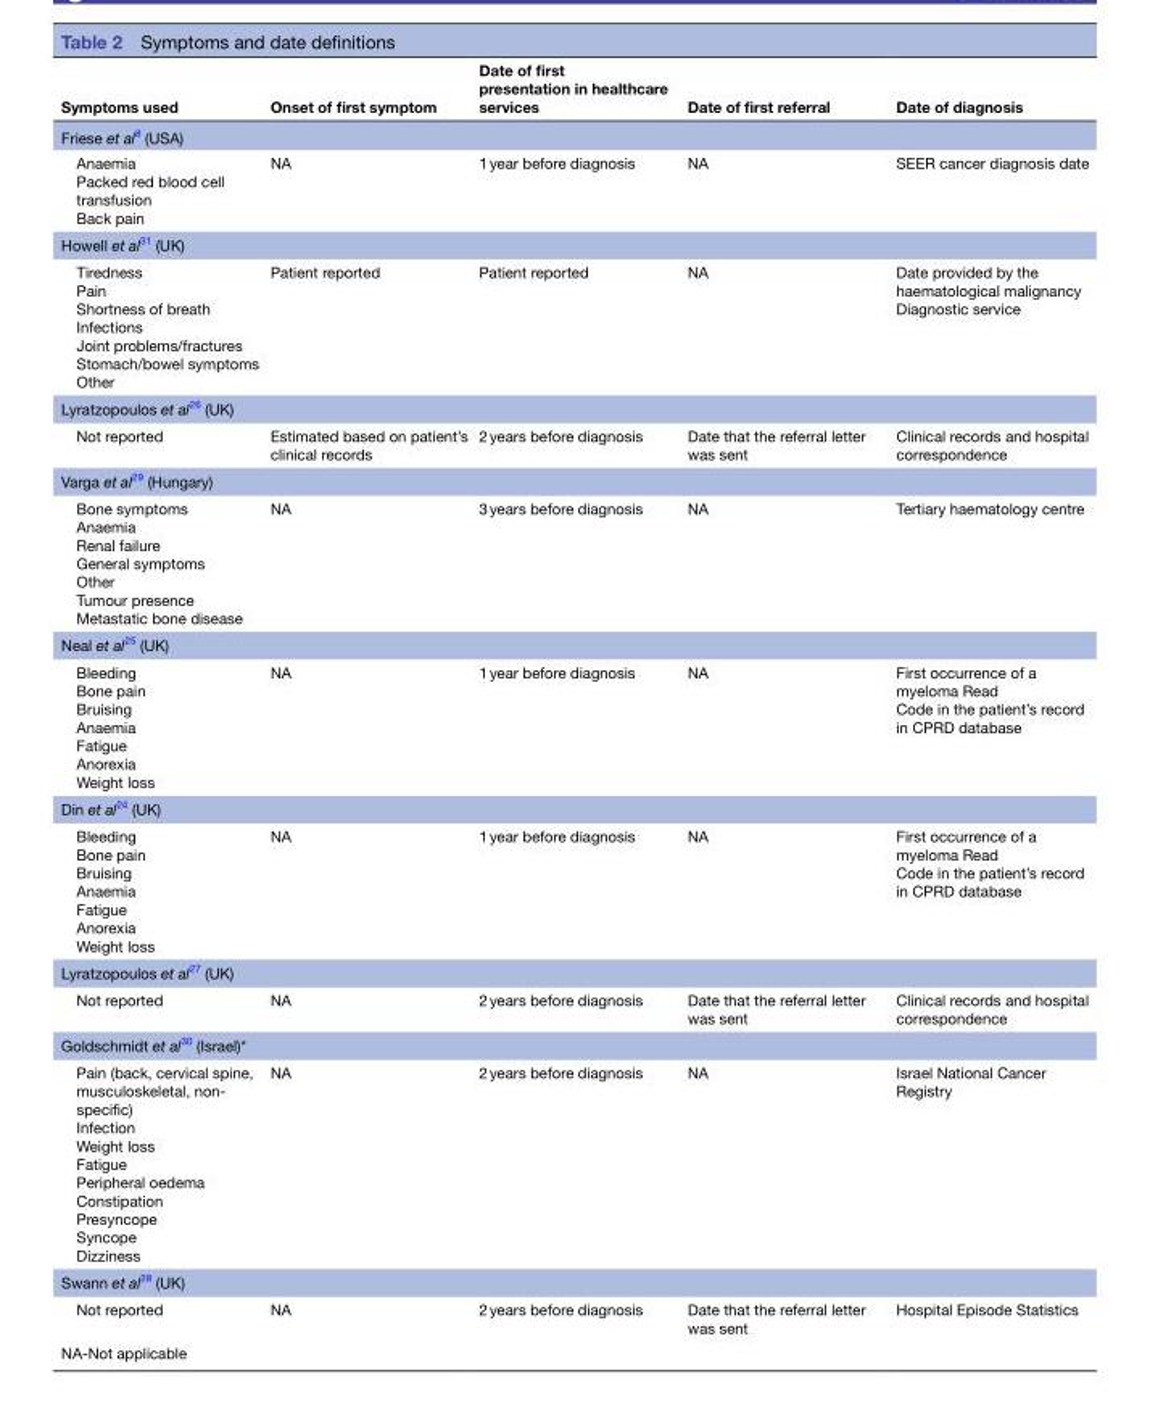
<table><thead><tr><td>Symptoms used</td><td>Onset of first symptom</td><td>Date of first presentation in healthcare services</td><td>Date of first referral</td><td>Date of diagnosis</td></tr></thead><tbody><tr><td colspan="5">Friese et al8 (USA)</td></tr><tr><td>Anaemia Packed red blood cell transfusion Back pain</td><td>NA</td><td>1 year before diagnosis</td><td>NA</td><td>SEER cancer diagnosis date</td></tr><tr><td colspan="5">Howell et al31 (UK)</td></tr><tr><td>Tiredness Pain Shortness of breath Infections Joint problems/fractures Stomach/bowel symptoms Other</td><td>Patient reported</td><td>Patient reported</td><td>NA</td><td>Date provided by the haematological malignancy Diagnostic service</td></tr><tr><td colspan="5">Lyratzopoulos et al26 (UK)</td></tr><tr><td>Not reported</td><td>Estimated based on patient’s clinical records</td><td>2 years before diagnosis</td><td>Date that the referral letter was sent</td><td>Clinical records and hospital correspondence</td></tr><tr><td colspan="5">Varga et al29 (Hungary)</td></tr><tr><td>Bone symptoms Anaemia Renal failure General symptoms Other Tumour presence Metastatic bone disease</td><td>NA</td><td>3 years before diagnosis</td><td>NA</td><td>Tertiary haematology centre</td></tr><tr><td colspan="5">Neal et al25 (UK)</td></tr><tr><td>Bleeding Bone pain Bruising Anaemia Fatigue Anorexia Weight loss</td><td>NA</td><td>1 year before diagnosis</td><td>NA</td><td>First occurrence of a myeloma Read Code in the patient’s record in CPRD database</td></tr><tr><td colspan="5">Din et al24 (UK)</td></tr><tr><td>Bleeding Bone pain Bruising Anaemia Fatigue Anorexia Weight loss</td><td>NA</td><td>1 year before diagnosis</td><td>NA</td><td>First occurrence of a myeloma Read Code in the patient’s record in CPRD database</td></tr><tr><td colspan="5">Lyratzopoulos et al27 (UK)</td></tr><tr><td>Not reported</td><td>NA</td><td>2 years before diagnosis</td><td>Date that the referral letter was sent</td><td>Clinical records and hospital correspondence</td></tr><tr><td colspan="5">Goldschmidt et al30 (Israel)*</td></tr><tr><td>Pain (back, cervical spine, musculoskeletal, non- specific) Infection Weight loss Fatigue Peripheral oedema Constipation Presyncope Syncope Dizziness</td><td>NA</td><td>2 years before diagnosis</td><td>NA</td><td>Israel National Cancer Registry</td></tr><tr><td colspan="5">Swann et al28 (UK)</td></tr><tr><td>Not reported</td><td>NA</td><td>2 years before diagnosis</td><td>Date that the referral letter was sent</td><td>Hospital Episode Statistics</td></tr><tr><td colspan="5">NA-Not applicable</td></tr></tbody></table>